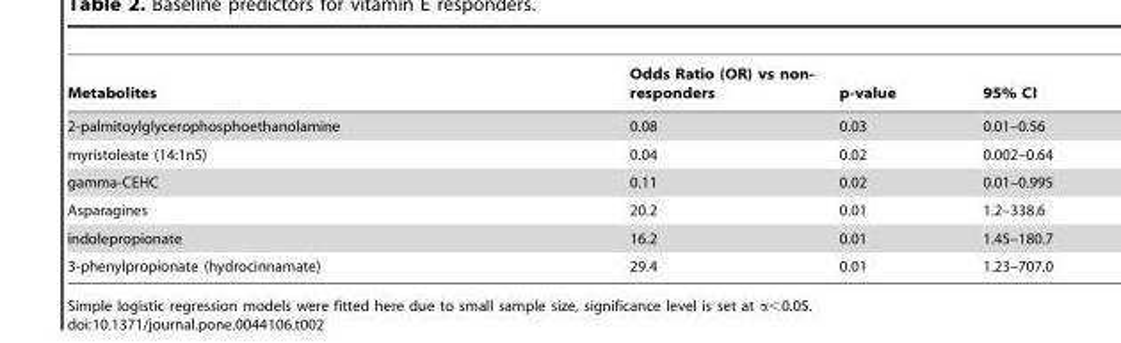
<table><thead><tr><td>Metabolites</td><td>Odds Ratio (OR) vs non- responders</td><td>p-value</td><td>95% CI</td></tr></thead><tbody><tr><td>2-palmitoylglycerophosphoethanolamine</td><td>0.08</td><td>0.03</td><td>0.01–0.56</td></tr><tr><td>myristoleate (14:1n5)</td><td>0.04</td><td>0.02</td><td>0.002–0.64</td></tr><tr><td>gamma-CEHC</td><td>0.11</td><td>0.02</td><td>0.01–0.995</td></tr><tr><td>Asparagines</td><td>20.2</td><td>0.01</td><td>1.2–338.6</td></tr><tr><td>indolepropionate</td><td>16.2</td><td>0.01</td><td>1.45–180.7</td></tr><tr><td>3-phenylpropionate (hydrocinnamate)</td><td>29.4</td><td>0.01</td><td>1.23–707.0</td></tr></tbody></table>